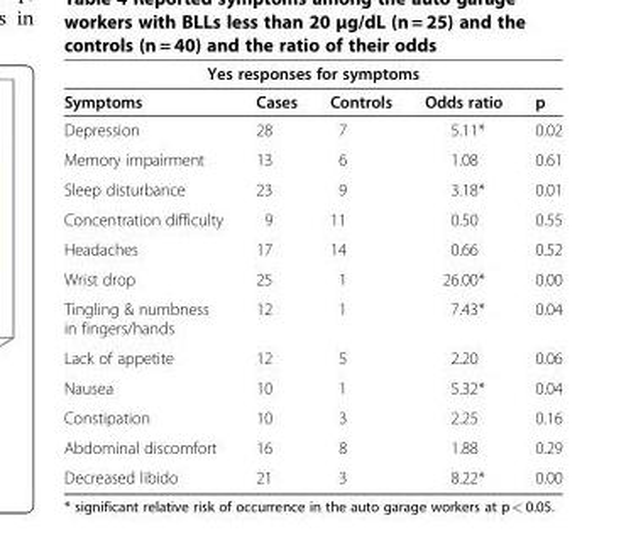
<table><thead><tr><td colspan="5">Yes responses for symptoms</td></tr><tr><td>Symptoms</td><td>Cases</td><td>Controls</td><td>Odds ratio</td><td>p</td></tr></thead><tbody><tr><td>Depression</td><td>28</td><td>7</td><td>5.11*</td><td>0.02</td></tr><tr><td>Memory impairment</td><td>13</td><td>6</td><td>1.08</td><td>0.61</td></tr><tr><td>Sleep disturbance</td><td>23</td><td>9</td><td>3.18*</td><td>0.01</td></tr><tr><td>Concentration difficulty</td><td>9</td><td>11</td><td>0.50</td><td>0.55</td></tr><tr><td>Headaches</td><td>17</td><td>14</td><td>0.66</td><td>0.52</td></tr><tr><td>Wrist drop</td><td>25</td><td>1</td><td>26.00*</td><td>0.00</td></tr><tr><td>Tingling &amp; numbness in fingers/hands</td><td>12</td><td>1</td><td>7.43*</td><td>0.04</td></tr><tr><td>Lack of appetite</td><td>12</td><td>5</td><td>2.20</td><td>0.06</td></tr><tr><td>Nausea</td><td>10</td><td>1</td><td>5.32*</td><td>0.04</td></tr><tr><td>Constipation</td><td>10</td><td>3</td><td>2.25</td><td>0.16</td></tr><tr><td>Abdominal discomfort</td><td>16</td><td>8</td><td>1.88</td><td>0.29</td></tr><tr><td>Decreased libido</td><td>21</td><td>3</td><td>8.22*</td><td>0.00</td></tr></tbody></table>